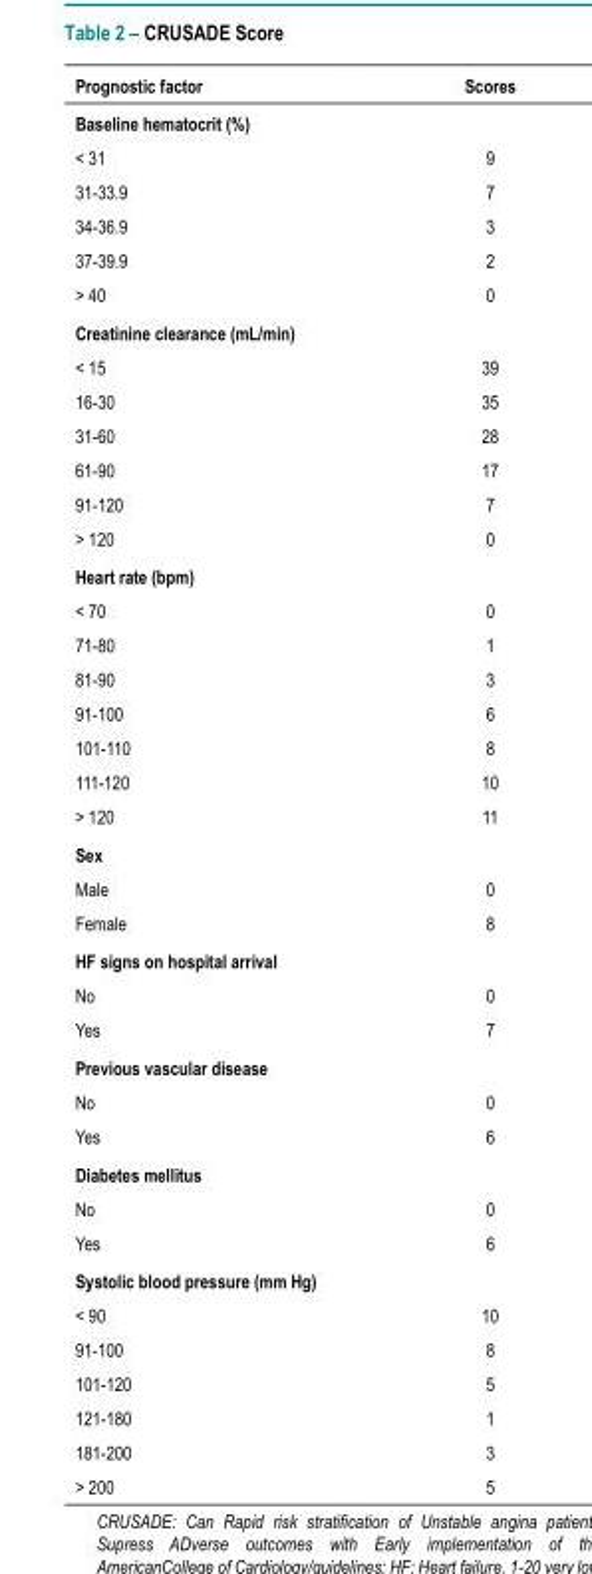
<table><thead><tr><td>Prognostic factor</td><td>Scores</td></tr></thead><tbody><tr><td colspan="2">Baseline hematocrit (%)</td></tr><tr><td>&lt; 31</td><td>9</td></tr><tr><td>31-33.9</td><td>7</td></tr><tr><td>34-36.9</td><td>3</td></tr><tr><td>37-39.9</td><td>2</td></tr><tr><td>&gt; 40</td><td>0</td></tr><tr><td colspan="2">Creatinine clearance (mL/min)</td></tr><tr><td>&lt; 15</td><td>39</td></tr><tr><td>16-30</td><td>35</td></tr><tr><td>31-60</td><td>28</td></tr><tr><td>61-90</td><td>17</td></tr><tr><td>91-120</td><td>7</td></tr><tr><td>&gt; 120</td><td>0</td></tr><tr><td colspan="2">Heart rate (bpm)</td></tr><tr><td>&lt; 70</td><td>0</td></tr><tr><td>71-80</td><td>1</td></tr><tr><td>81-90</td><td>3</td></tr><tr><td>91-100</td><td>6</td></tr><tr><td>101-110</td><td>8</td></tr><tr><td>111-120</td><td>10</td></tr><tr><td>&gt; 120</td><td>11</td></tr><tr><td colspan="2">Sex</td></tr><tr><td>Male</td><td>0</td></tr><tr><td>Female</td><td>8</td></tr><tr><td colspan="2">HF signs on hospital arrival</td></tr><tr><td>No</td><td>0</td></tr><tr><td>Yes</td><td>7</td></tr><tr><td colspan="2">Previous vascular disease</td></tr><tr><td>No</td><td>0</td></tr><tr><td>Yes</td><td>6</td></tr><tr><td colspan="2">Diabetes mellitus</td></tr><tr><td>No</td><td>0</td></tr><tr><td>Yes</td><td>6</td></tr><tr><td colspan="2">Systolic blood pressure (mm Hg)</td></tr><tr><td>&lt; 90</td><td>10</td></tr><tr><td>91-100</td><td>8</td></tr><tr><td>101-120</td><td>5</td></tr><tr><td>121-180</td><td>1</td></tr><tr><td>181-200</td><td>3</td></tr><tr><td>&gt; 200</td><td>5</td></tr></tbody></table>